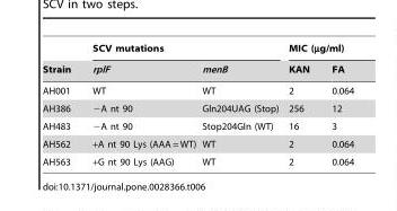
<table><thead><tr><td rowspan="2">Strain</td><td colspan="2">SCV mutations</td><td colspan="2">MIC (µg/ml)</td></tr><tr><td>rplF</td><td>menB</td><td>KAN</td><td>FA</td></tr></thead><tbody><tr><td>AH001</td><td>WT</td><td>WT</td><td>2</td><td>0.064</td></tr><tr><td>AH386</td><td>−A nt 90</td><td>Gln204UAG (Stop)</td><td>256</td><td>12</td></tr><tr><td>AH483</td><td>−A nt 90</td><td>Stop204Gln (WT)</td><td>16</td><td>3</td></tr><tr><td>AH562</td><td>+A nt 90 Lys (AAA = WT)</td><td>WT</td><td>2</td><td>0.064</td></tr><tr><td>AH563</td><td>+G nt 90 Lys (AAG)</td><td>WT</td><td>2</td><td>0.064</td></tr></tbody></table>